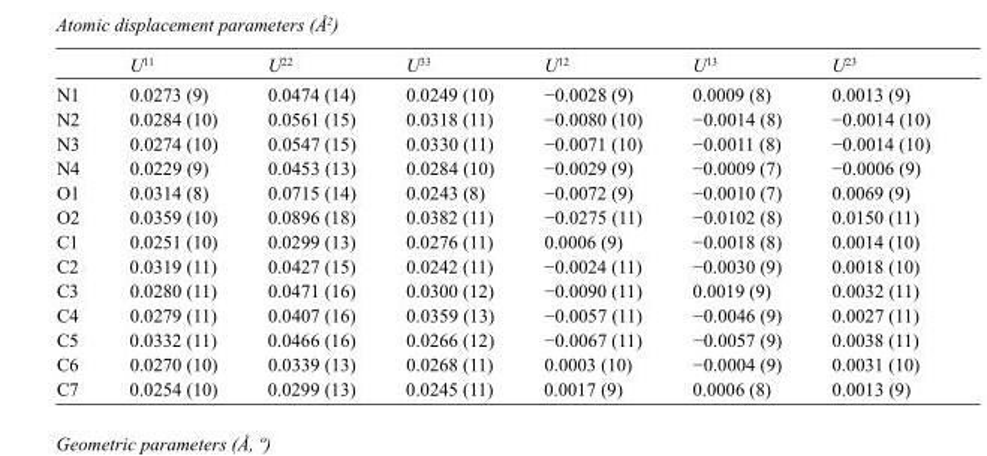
<table><thead><tr><td></td><td>U<sup>11</sup></td><td>U<sup>22</sup></td><td>U<sup>33</sup></td><td>U<sup>12</sup></td><td>U<sup>13</sup></td><td>U<sup>23</sup></td></tr></thead><tbody><tr><td>N1</td><td>0.0273 (9)</td><td>0.0474 (14)</td><td>0.0249 (10)</td><td>−0.0028 (9)</td><td>0.0009 (8)</td><td>0.0013 (9)</td></tr><tr><td>N2</td><td>0.0284 (10)</td><td>0.0561 (15)</td><td>0.0318 (11)</td><td>−0.0080 (10)</td><td>−0.0014 (8)</td><td>−0.0014 (10)</td></tr><tr><td>N3</td><td>0.0274 (10)</td><td>0.0547 (15)</td><td>0.0330 (11)</td><td>−0.0071 (10)</td><td>−0.0011 (8)</td><td>−0.0014 (10)</td></tr><tr><td>N4</td><td>0.0229 (9)</td><td>0.0453 (13)</td><td>0.0284 (10)</td><td>−0.0029 (9)</td><td>−0.0009 (7)</td><td>−0.0006 (9)</td></tr><tr><td>O1</td><td>0.0314 (8)</td><td>0.0715 (14)</td><td>0.0243 (8)</td><td>−0.0072 (9)</td><td>−0.0010 (7)</td><td>0.0069 (9)</td></tr><tr><td>O2</td><td>0.0359 (10)</td><td>0.0896 (18)</td><td>0.0382 (11)</td><td>−0.0275 (11)</td><td>−0.0102 (8)</td><td>0.0150 (11)</td></tr><tr><td>C1</td><td>0.0251 (10)</td><td>0.0299 (13)</td><td>0.0276 (11)</td><td>0.0006 (9)</td><td>−0.0018 (8)</td><td>0.0014 (10)</td></tr><tr><td>C2</td><td>0.0319 (11)</td><td>0.0427 (15)</td><td>0.0242 (11)</td><td>−0.0024 (11)</td><td>−0.0030 (9)</td><td>0.0018 (10)</td></tr><tr><td>C3</td><td>0.0280 (11)</td><td>0.0471 (16)</td><td>0.0300 (12)</td><td>−0.0090 (11)</td><td>0.0019 (9)</td><td>0.0032 (11)</td></tr><tr><td>C4</td><td>0.0279 (11)</td><td>0.0407 (16)</td><td>0.0359 (13)</td><td>−0.0057 (11)</td><td>−0.0046 (9)</td><td>0.0027 (11)</td></tr><tr><td>C5</td><td>0.0332 (11)</td><td>0.0466 (16)</td><td>0.0266 (12)</td><td>−0.0067 (11)</td><td>−0.0057 (9)</td><td>0.0038 (11)</td></tr><tr><td>C6</td><td>0.0270 (10)</td><td>0.0339 (13)</td><td>0.0268 (11)</td><td>0.0003 (10)</td><td>−0.0004 (9)</td><td>0.0031 (10)</td></tr><tr><td>C7</td><td>0.0254 (10)</td><td>0.0299 (13)</td><td>0.0245 (11)</td><td>0.0017 (9)</td><td>0.0006 (8)</td><td>0.0013 (9)</td></tr></tbody></table>